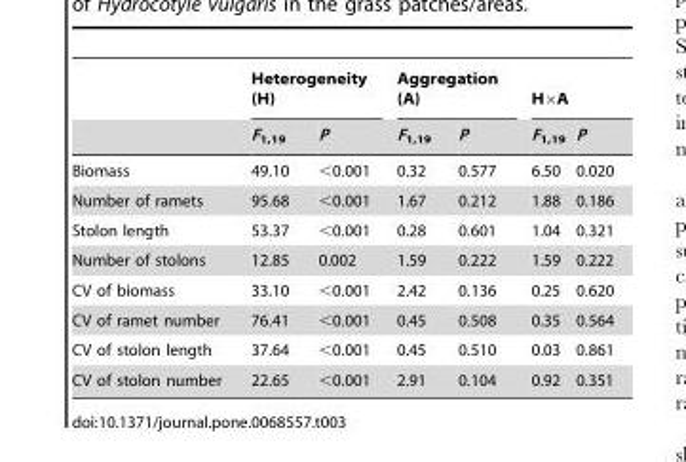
<table><thead><tr><td rowspan="2"></td><td colspan="2">Heterogeneity (H)</td><td colspan="2">Aggregation (A)</td><td colspan="2">H×A</td></tr><tr><td>F<sub>1,19</sub></td><td>P</td><td>F<sub>1,19</sub></td><td>P</td><td>F<sub>1,19</sub></td><td>P</td></tr></thead><tbody><tr><td>Biomass</td><td>49.10</td><td>&lt;0.001</td><td>0.32</td><td>0.577</td><td>6.50</td><td>0.020</td></tr><tr><td>Number of ramets</td><td>95.68</td><td>&lt;0.001</td><td>1.67</td><td>0.212</td><td>1.88</td><td>0.186</td></tr><tr><td>Stolon length</td><td>53.37</td><td>&lt;0.001</td><td>0.28</td><td>0.601</td><td>1.04</td><td>0.321</td></tr><tr><td>Number of stolons</td><td>12.85</td><td>0.002</td><td>1.59</td><td>0.222</td><td>1.59</td><td>0.222</td></tr><tr><td>CV of biomass</td><td>33.10</td><td>&lt;0.001</td><td>2.42</td><td>0.136</td><td>0.25</td><td>0.620</td></tr><tr><td>CV of ramet number</td><td>76.41</td><td>&lt;0.001</td><td>0.45</td><td>0.508</td><td>0.35</td><td>0.564</td></tr><tr><td>CV of stolon length</td><td>37.64</td><td>&lt;0.001</td><td>0.45</td><td>0.510</td><td>0.03</td><td>0.861</td></tr><tr><td>CV of stolon number</td><td>22.65</td><td>&lt;0.001</td><td>2.91</td><td>0.104</td><td>0.92</td><td>0.351</td></tr></tbody></table>